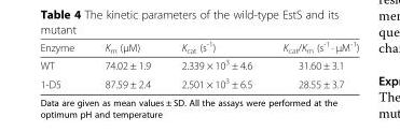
<table><thead><tr><td>Enzyme</td><td>K<sub>m</sub> (μM)</td><td>K<sub>cat</sub> (s<sup>-1</sup>)</td><td>K<sub>cat</sub>/K<sub>m</sub> (s<sup>-1</sup> · μM<sup>-1</sup>)</td></tr></thead><tbody><tr><td>WT</td><td>74.02 ± 1.9</td><td>2.339 × 10<sup>3</sup> ± 4.6</td><td>31.60 ± 3.1</td></tr><tr><td>1-D5</td><td>87.59 ± 2.4</td><td>2.501 × 10<sup>3</sup> ± 6.5</td><td>28.55 ± 3.7</td></tr></tbody></table>